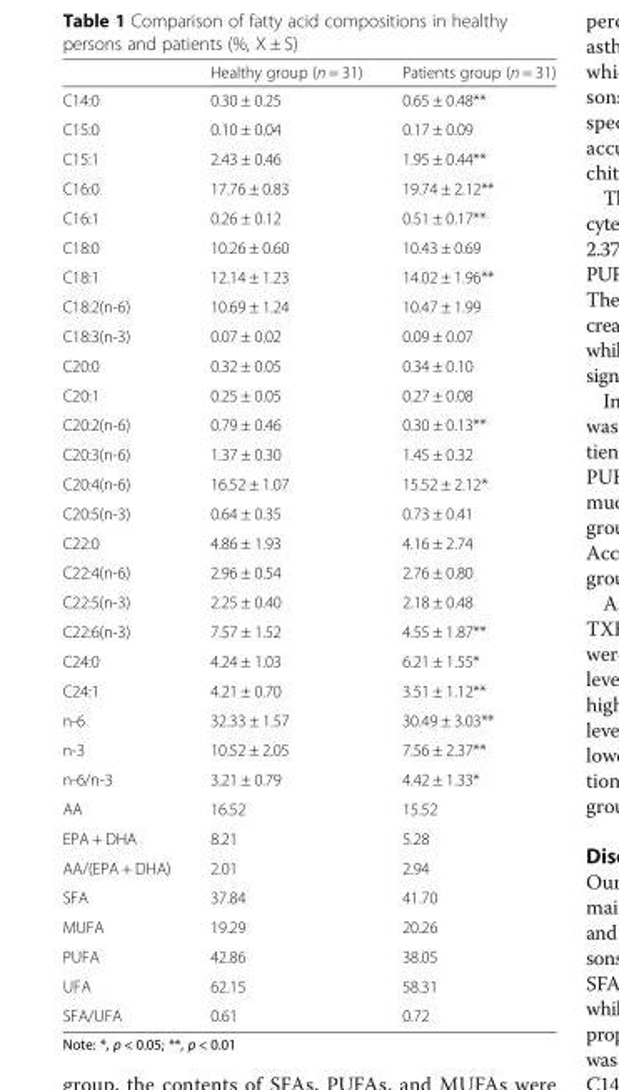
<table><thead><tr><td></td><td>Healthy group (n = 31)</td><td>Patients group (n = 31)</td></tr></thead><tbody><tr><td>C14:0</td><td>0.30 ± 0.25</td><td>0.65 ± 0.48**</td></tr><tr><td>C15:0</td><td>0.10 ± 0.04</td><td>0.17 ± 0.09</td></tr><tr><td>C15:1</td><td>2.43 ± 0.46</td><td>1.95 ± 0.44**</td></tr><tr><td>C16:0</td><td>17.76 ± 0.83</td><td>19.74 ± 2.12**</td></tr><tr><td>C16:1</td><td>0.26 ± 0.12</td><td>0.51 ± 0.17**</td></tr><tr><td>C18:0</td><td>10.26 ± 0.60</td><td>10.43 ± 0.69</td></tr><tr><td>C18:1</td><td>12.14 ± 1.23</td><td>14.02 ± 1.96**</td></tr><tr><td>C18:2(n-6)</td><td>10.69 ± 1.24</td><td>10.47 ± 1.99</td></tr><tr><td>C18:3(n-3)</td><td>0.07 ± 0.02</td><td>0.09 ± 0.07</td></tr><tr><td>C20:0</td><td>0.32 ± 0.05</td><td>0.34 ± 0.10</td></tr><tr><td>C20:1</td><td>0.25 ± 0.05</td><td>0.27 ± 0.08</td></tr><tr><td>C20:2(n-6)</td><td>0.79 ± 0.46</td><td>0.30 ± 0.13**</td></tr><tr><td>C20:3(n-6)</td><td>1.37 ± 0.30</td><td>1.45 ± 0.32</td></tr><tr><td>C20:4(n-6)</td><td>16.52 ± 1.07</td><td>15.52 ± 2.12*</td></tr><tr><td>C20:5(n-3)</td><td>0.64 ± 0.35</td><td>0.73 ± 0.41</td></tr><tr><td>C22:0</td><td>4.86 ± 1.93</td><td>4.16 ± 2.74</td></tr><tr><td>C22:4(n-6)</td><td>2.96 ± 0.54</td><td>2.76 ± 0.80</td></tr><tr><td>C22:5(n-3)</td><td>2.25 ± 0.40</td><td>2.18 ± 0.48</td></tr><tr><td>C22:6(n-3)</td><td>7.57 ± 1.52</td><td>4.55 ± 1.87**</td></tr><tr><td>C24:0</td><td>4.24 ± 1.03</td><td>6.21 ± 1.55*</td></tr><tr><td>C24:1</td><td>4.21 ± 0.70</td><td>3.51 ± 1.12**</td></tr><tr><td>n-6</td><td>32.33 ± 1.57</td><td>30.49 ± 3.03**</td></tr><tr><td>n-3</td><td>10.52 ± 2.05</td><td>7.56 ± 2.37**</td></tr><tr><td>n-6/n-3</td><td>3.21 ± 0.79</td><td>4.42 ± 1.33*</td></tr><tr><td>AA</td><td>16.52</td><td>15.52</td></tr><tr><td>EPA + DHA</td><td>8.21</td><td>5.28</td></tr><tr><td>AA/(EPA + DHA)</td><td>2.01</td><td>2.94</td></tr><tr><td>SFA</td><td>37.84</td><td>41.70</td></tr><tr><td>MUFA</td><td>19.29</td><td>20.26</td></tr><tr><td>PUFA</td><td>42.86</td><td>38.05</td></tr><tr><td>UFA</td><td>62.15</td><td>58.31</td></tr><tr><td>SFA/UFA</td><td>0.61</td><td>0.72</td></tr></tbody></table>